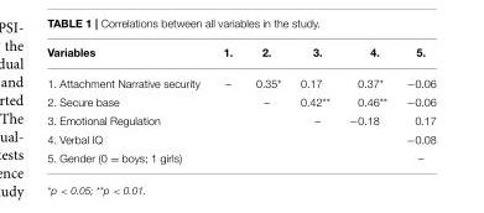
<table><thead><tr><td>Variables</td><td>1.</td><td>2.</td><td>3.</td><td>4.</td><td>5.</td></tr></thead><tbody><tr><td>1. Attachment Narrative security</td><td>–</td><td>0.35*</td><td>0.17</td><td>0.37*</td><td>−0.06</td></tr><tr><td>2. Secure base</td><td></td><td>–</td><td>0.42**</td><td>0.46**</td><td>−0.06</td></tr><tr><td>3. Emotional Regulation</td><td></td><td></td><td>–</td><td>−0.18</td><td>0.17</td></tr><tr><td>4. Verbal IQ</td><td></td><td></td><td></td><td></td><td>−0.08</td></tr><tr><td>5. Gender (0 = boys; 1 girls)</td><td></td><td></td><td></td><td></td><td>–</td></tr></tbody></table>